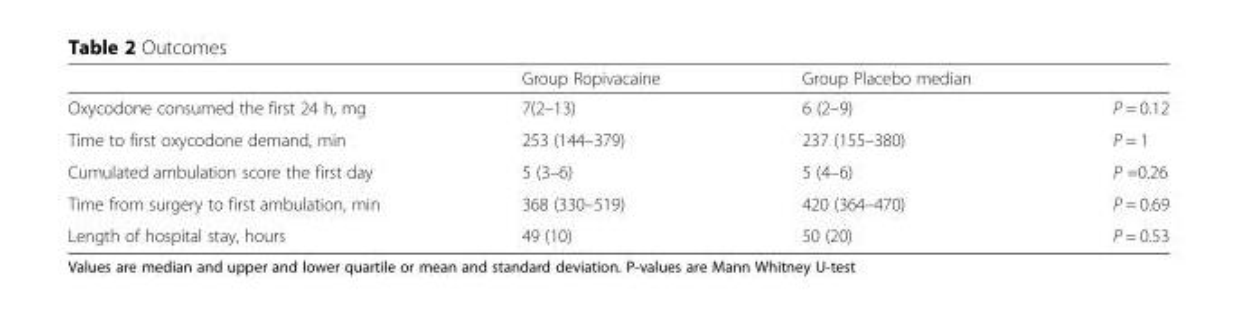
<table><thead><tr><td></td><td>Group Ropivacaine</td><td>Group Placebo median</td><td></td></tr></thead><tbody><tr><td>Oxycodone consumed the first 24 h, mg</td><td>7(2–13)</td><td>6 (2–9)</td><td>P = 0.12</td></tr><tr><td>Time to first oxycodone demand, min</td><td>253 (144–379)</td><td>237 (155–380)</td><td>P = 1</td></tr><tr><td>Cumulated ambulation score the first day</td><td>5 (3–6)</td><td>5 (4–6)</td><td>P =0.26</td></tr><tr><td>Time from surgery to first ambulation, min</td><td>368 (330–519)</td><td>420 (364–470)</td><td>P = 0.69</td></tr><tr><td>Length of hospital stay, hours</td><td>49 (10)</td><td>50 (20)</td><td>P = 0.53</td></tr></tbody></table>